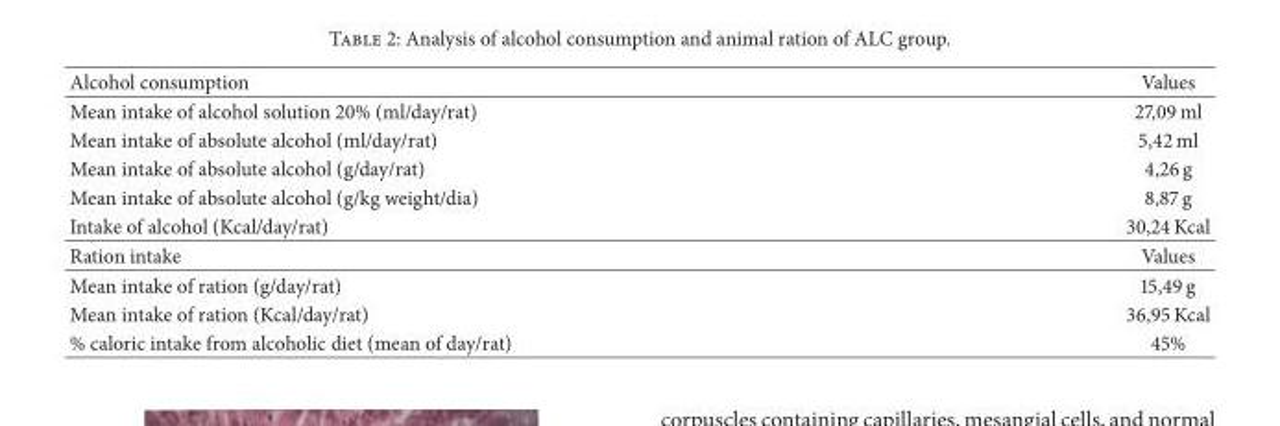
<table><thead><tr><td>Alcohol consumption</td><td>Values</td></tr></thead><tbody><tr><td>Mean intake of alcohol solution 20% (ml/day/rat)</td><td>27,09 ml</td></tr><tr><td>Mean intake of absolute alcohol (ml/day/rat)</td><td>5,42 ml</td></tr><tr><td>Mean intake of absolute alcohol (g/day/rat)</td><td>4,26 g</td></tr><tr><td>Mean intake of absolute alcohol (g/kg weight/dia)</td><td>8,87 g</td></tr><tr><td>Intake of alcohol (Kcal/day/rat)</td><td>30,24 Kcal</td></tr><tr><td>Ration intake</td><td>Values</td></tr><tr><td>Mean intake of ration (g/day/rat)</td><td>15,49 g</td></tr><tr><td>Mean intake of ration (Kcal/day/rat)</td><td>36,95 Kcal</td></tr><tr><td>% caloric intake from alcoholic diet (mean of day/rat)</td><td>45%</td></tr></tbody></table>